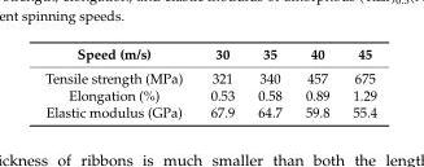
<table><thead><tr><td>Speed (m/s)</td><td>30</td><td>35</td><td>40</td><td>45</td></tr></thead><tbody><tr><td>Tensile strength (MPa)</td><td>321</td><td>340</td><td>457</td><td>675</td></tr><tr><td>Elongation (%)</td><td>0.53</td><td>0.58</td><td>0.89</td><td>1.29</td></tr><tr><td>Elastic modulus (GPa)</td><td>67.9</td><td>64.7</td><td>59.8</td><td>55.4</td></tr></tbody></table>